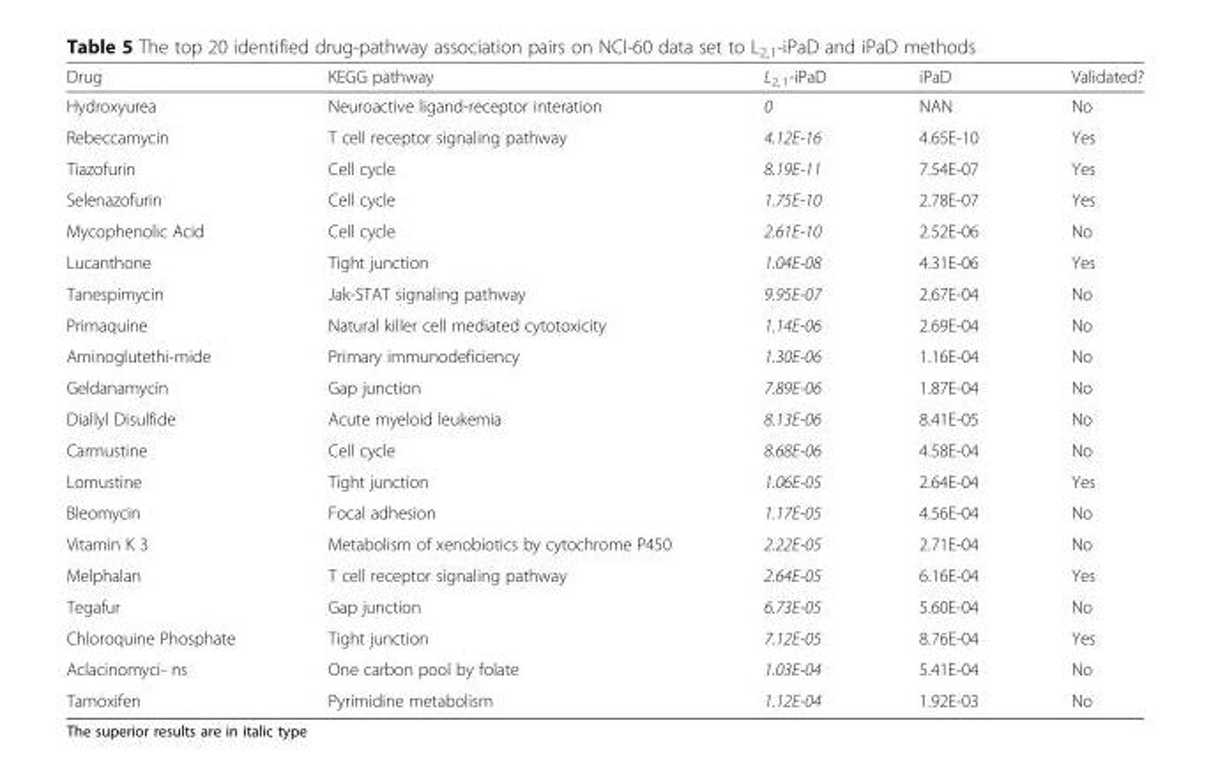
<table><thead><tr><td>Drug</td><td>KEGG pathway</td><td>L<sub>2, 1</sub>-iPaD</td><td>iPaD</td><td>Validated?</td></tr></thead><tbody><tr><td>Hydroxyurea</td><td>Neuroactive ligand-receptor interation</td><td>0</td><td>NAN</td><td>No</td></tr><tr><td>Rebeccamycin</td><td>T cell receptor signaling pathway</td><td>4.12E-16</td><td>4.65E-10</td><td>Yes</td></tr><tr><td>Tiazofurin</td><td>Cell cycle</td><td>8.19E-11</td><td>7.54E-07</td><td>Yes</td></tr><tr><td>Selenazofurin</td><td>Cell cycle</td><td>1.75E-10</td><td>2.78E-07</td><td>Yes</td></tr><tr><td>Mycophenolic Acid</td><td>Cell cycle</td><td>2.61E-10</td><td>2.52E-06</td><td>No</td></tr><tr><td>Lucanthone</td><td>Tight junction</td><td>1.04E-08</td><td>4.31E-06</td><td>Yes</td></tr><tr><td>Tanespimycin</td><td>Jak-STAT signaling pathway</td><td>9.95E-07</td><td>2.67E-04</td><td>No</td></tr><tr><td>Primaquine</td><td>Natural killer cell mediated cytotoxicity</td><td>1.14E-06</td><td>2.69E-04</td><td>No</td></tr><tr><td>Aminoglutethi-mide</td><td>Primary immunodeficiency</td><td>1.30E-06</td><td>1.16E-04</td><td>No</td></tr><tr><td>Geldanamycin</td><td>Gap junction</td><td>7.89E-06</td><td>1.87E-04</td><td>No</td></tr><tr><td>Diallyl Disulfide</td><td>Acute myeloid leukemia</td><td>8.13E-06</td><td>8.41E-05</td><td>No</td></tr><tr><td>Carmustine</td><td>Cell cycle</td><td>8.68E-06</td><td>4.58E-04</td><td>No</td></tr><tr><td>Lomustine</td><td>Tight junction</td><td>1.06E-05</td><td>2.64E-04</td><td>Yes</td></tr><tr><td>Bleomycin</td><td>Focal adhesion</td><td>1.17E-05</td><td>4.56E-04</td><td>No</td></tr><tr><td>Vitamin K 3</td><td>Metabolism of xenobiotics by cytochrome P450</td><td>2.22E-05</td><td>2.71E-04</td><td>No</td></tr><tr><td>Melphalan</td><td>T cell receptor signaling pathway</td><td>2.64E-05</td><td>6.16E-04</td><td>Yes</td></tr><tr><td>Tegafur</td><td>Gap junction</td><td>6.73E-05</td><td>5.60E-04</td><td>No</td></tr><tr><td>Chloroquine Phosphate</td><td>Tight junction</td><td>7.12E-05</td><td>8.76E-04</td><td>Yes</td></tr><tr><td>Aclacinomyci- ns</td><td>One carbon pool by folate</td><td>1.03E-04</td><td>5.41E-04</td><td>No</td></tr><tr><td>Tamoxifen</td><td>Pyrimidine metabolism</td><td>1.12E-04</td><td>1.92E-03</td><td>No</td></tr></tbody></table>